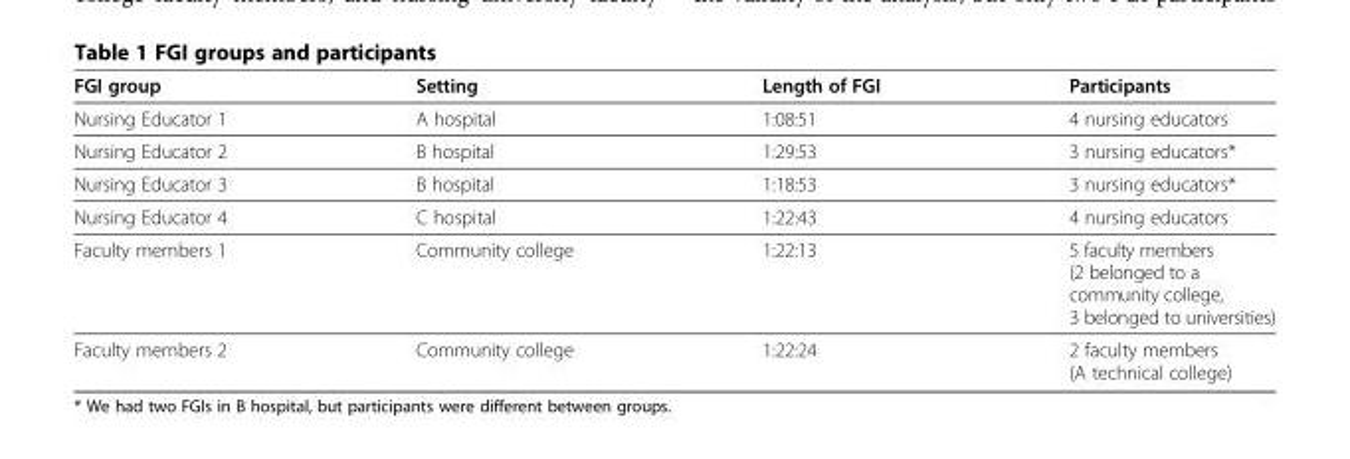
<table><thead><tr><td>FGI group</td><td>Setting</td><td>Length of FGI</td><td>Participants</td></tr></thead><tbody><tr><td>Nursing Educator 1</td><td>A hospital</td><td>1:08:51</td><td>4 nursing educators</td></tr><tr><td>Nursing Educator 2</td><td>B hospital</td><td>1:29:53</td><td>3 nursing educators*</td></tr><tr><td>Nursing Educator 3</td><td>B hospital</td><td>1:18:53</td><td>3 nursing educators*</td></tr><tr><td>Nursing Educator 4</td><td>C hospital</td><td>1:22:43</td><td>4 nursing educators</td></tr><tr><td>Faculty members 1</td><td>Community college</td><td>1:22:13</td><td>5 faculty members (2 belonged to a community college, 3 belonged to universities)</td></tr><tr><td>Faculty members 2</td><td>Community college</td><td>1:22:24</td><td>2 faculty members (A technical college)</td></tr></tbody></table>